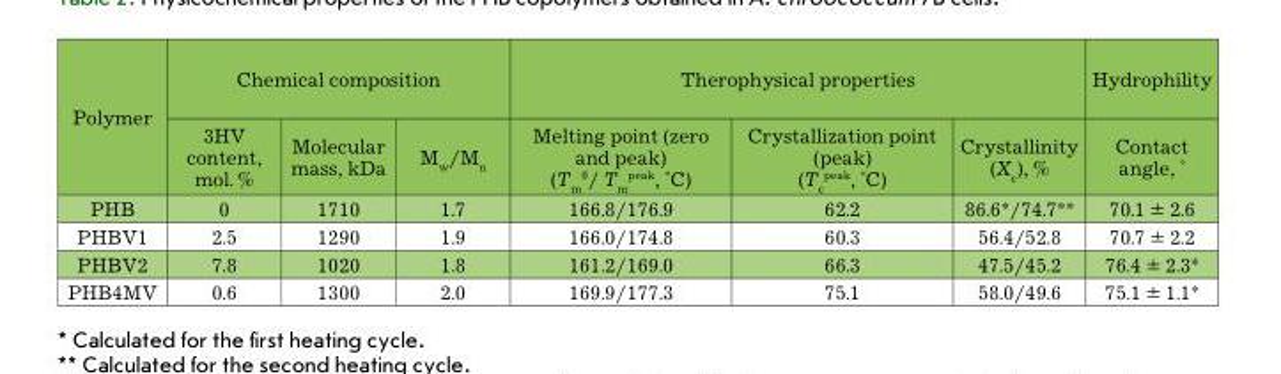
<table><thead><tr><td rowspan="2">Polymer</td><td colspan="3">Chemical composition</td><td colspan="3">Therophysical properties</td><td rowspan="2">Hydrophility Contact angle, °</td></tr><tr><td>3HV content, mol. %</td><td>Molecular mass, kDa</td><td>M<sub>w</sub>/M<sub>n</sub></td><td>Melting point (zero and peak) (T<sub>m</sub> <sup>0</sup>/ T<sub>m</sub> <sup>peak</sup>, °C)</td><td>Crystallization point (peak) (T<sub>c</sub> <sup>peak</sup>, °C)</td><td>Crystallinity (X<sub>c</sub>), %</td></tr></thead><tbody><tr><td>PHB</td><td>0</td><td>1710</td><td>1.7</td><td>166.8/176.9</td><td>62.2</td><td>86.6*/74.7**</td><td>70.1 ± 2.6</td></tr><tr><td>PHBV1</td><td>2.5</td><td>1290</td><td>1.9</td><td>166.0/174.8</td><td>60.3</td><td>56.4/52.8</td><td>70.7 ± 2.2</td></tr><tr><td>PHBV2</td><td>7.8</td><td>1020</td><td>1.8</td><td>161.2/169.0</td><td>66.3</td><td>47.5/45.2</td><td>76.4 ± 2.3*</td></tr><tr><td>PHB4MV</td><td>0.6</td><td>1300</td><td>2.0</td><td>169.9/177.3</td><td>75.1</td><td>58.0/49.6</td><td>75.1 ± 1.1*</td></tr></tbody></table>